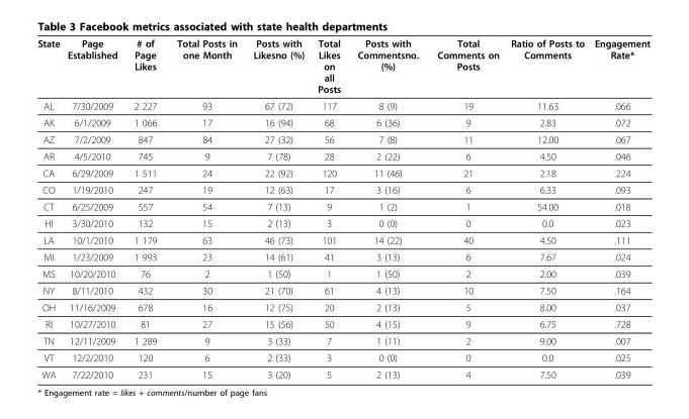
<table><thead><tr><td>State</td><td>Page Established</td><td># of Page Likes</td><td>Total Posts in one Month</td><td>Posts with Likesno (%)</td><td>Total Likes on all Posts</td><td>Posts with Commentsno. (%)</td><td>Total Comments on Posts</td><td>Ratio of Posts to Comments</td><td>Engagement Rate*</td></tr></thead><tbody><tr><td>AL</td><td>7/30/2009</td><td>2 227</td><td>93</td><td>67 (72)</td><td>117</td><td>8 (9)</td><td>19</td><td>11.63</td><td>.066</td></tr><tr><td>AK</td><td>6/1/2009</td><td>1 066</td><td>17</td><td>16 (94)</td><td>68</td><td>6 (36)</td><td>9</td><td>2.83</td><td>.072</td></tr><tr><td>AZ</td><td>7/2/2009</td><td>847</td><td>84</td><td>27 (32)</td><td>56</td><td>7 (8)</td><td>11</td><td>12.00</td><td>.067</td></tr><tr><td>AR</td><td>4/5/2010</td><td>745</td><td>9</td><td>7 (78)</td><td>28</td><td>2 (22)</td><td>6</td><td>4.50</td><td>.046</td></tr><tr><td>CA</td><td>6/29/2009</td><td>1 511</td><td>24</td><td>22 (92)</td><td>120</td><td>11 (46)</td><td>21</td><td>2.18</td><td>.224</td></tr><tr><td>CO</td><td>1/19/2010</td><td>247</td><td>19</td><td>12 (63)</td><td>17</td><td>3 (16)</td><td>6</td><td>6.33</td><td>.093</td></tr><tr><td>CT</td><td>6/25/2009</td><td>557</td><td>54</td><td>7 (13)</td><td>9</td><td>1 (2)</td><td>1</td><td>54.00</td><td>.018</td></tr><tr><td>HI</td><td>3/30/2010</td><td>132</td><td>15</td><td>2 (13)</td><td>3</td><td>0 (0)</td><td>0</td><td>0.0</td><td>.023</td></tr><tr><td>LA</td><td>10/1/2010</td><td>1 179</td><td>63</td><td>46 (73)</td><td>101</td><td>14 (22)</td><td>40</td><td>4.50</td><td>.111</td></tr><tr><td>MI</td><td>1/23/2009</td><td>1 993</td><td>23</td><td>14 (61)</td><td>41</td><td>3 (13)</td><td>6</td><td>7.67</td><td>.024</td></tr><tr><td>MS</td><td>10/20/2010</td><td>76</td><td>2</td><td>1 (50)</td><td>1</td><td>1 (50)</td><td>2</td><td>2.00</td><td>.039</td></tr><tr><td>NY</td><td>8/11/2010</td><td>432</td><td>30</td><td>21 (70)</td><td>61</td><td>4 (13)</td><td>10</td><td>7.50</td><td>.164</td></tr><tr><td>OH</td><td>11/16/2009</td><td>678</td><td>16</td><td>12 (75)</td><td>20</td><td>2 (13)</td><td>5</td><td>8.00</td><td>.037</td></tr><tr><td>RI</td><td>10/27/2010</td><td>81</td><td>27</td><td>15 (56)</td><td>50</td><td>4 (15)</td><td>9</td><td>6.75</td><td>.728</td></tr><tr><td>TN</td><td>12/11/2009</td><td>1 289</td><td>9</td><td>3 (33)</td><td>7</td><td>1 (11)</td><td>2</td><td>9.00</td><td>.007</td></tr><tr><td>VT</td><td>12/2/2010</td><td>120</td><td>6</td><td>2 (33)</td><td>3</td><td>0 (0)</td><td>0</td><td>0.0</td><td>.025</td></tr><tr><td>WA</td><td>7/22/2010</td><td>231</td><td>15</td><td>3 (20)</td><td>5</td><td>2 (13)</td><td>4</td><td>7.50</td><td>.039</td></tr></tbody></table>